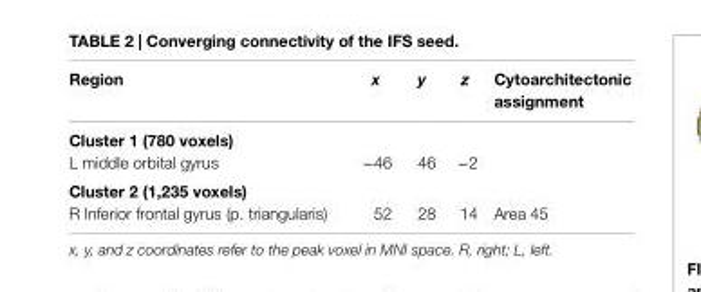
<table><thead><tr><td>region</td><td>x</td><td>y</td><td>z</td><td>cytoarchitectonic assignment</td></tr></thead><tbody><tr><td colspan="5">cluster 1 (780 voxels)</td></tr><tr><td>L middle orbital gyrus</td><td>−46</td><td>46</td><td>−2</td><td></td></tr><tr><td colspan="5">cluster 2 (1,235 voxels)</td></tr><tr><td>R Inferior frontal gyrus (p. triangularis)</td><td>52</td><td>28</td><td>14</td><td>Area 45</td></tr></tbody></table>